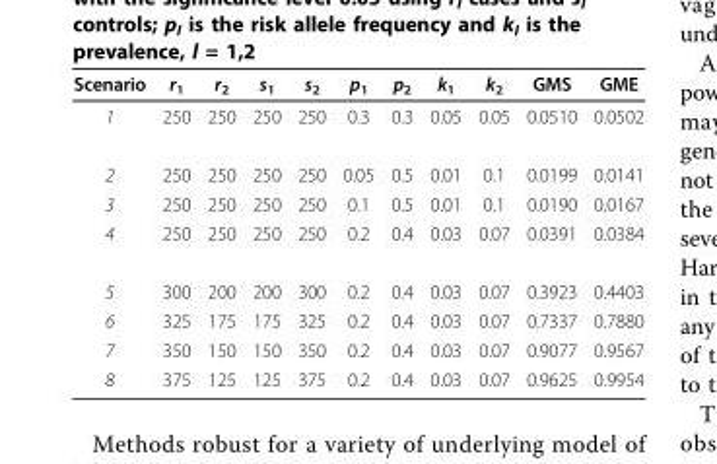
<table><thead><tr><td>Scenario</td><td>r<sub>1</sub></td><td>r<sub>2</sub></td><td>s<sub>1</sub></td><td>s<sub>2</sub></td><td>p<sub>1</sub></td><td>p<sub>2</sub></td><td>k<sub>1</sub></td><td>k<sub>2</sub></td><td>GMS</td><td>GME</td></tr></thead><tbody><tr><td>1</td><td>250</td><td>250</td><td>250</td><td>250</td><td>0.3</td><td>0.3</td><td>0.05</td><td>0.05</td><td>0.0510</td><td>0.0502</td></tr><tr><td>2</td><td>250</td><td>250</td><td>250</td><td>250</td><td>0.05</td><td>0.5</td><td>0.01</td><td>0.1</td><td>0.0199</td><td>0.0141</td></tr><tr><td>3</td><td>250</td><td>250</td><td>250</td><td>250</td><td>0.1</td><td>0.5</td><td>0.01</td><td>0.1</td><td>0.0190</td><td>0.0167</td></tr><tr><td>4</td><td>250</td><td>250</td><td>250</td><td>250</td><td>0.2</td><td>0.4</td><td>0.03</td><td>0.07</td><td>0.0391</td><td>0.0384</td></tr><tr><td>5</td><td>300</td><td>200</td><td>200</td><td>300</td><td>0.2</td><td>0.4</td><td>0.03</td><td>0.07</td><td>0.3923</td><td>0.4403</td></tr><tr><td>6</td><td>325</td><td>175</td><td>175</td><td>325</td><td>0.2</td><td>0.4</td><td>0.03</td><td>0.07</td><td>0.7337</td><td>0.7880</td></tr><tr><td>7</td><td>350</td><td>150</td><td>150</td><td>350</td><td>0.2</td><td>0.4</td><td>0.03</td><td>0.07</td><td>0.9077</td><td>0.9567</td></tr><tr><td>8</td><td>375</td><td>125</td><td>125</td><td>375</td><td>0.2</td><td>0.4</td><td>0.03</td><td>0.07</td><td>0.9625</td><td>0.9954</td></tr></tbody></table>